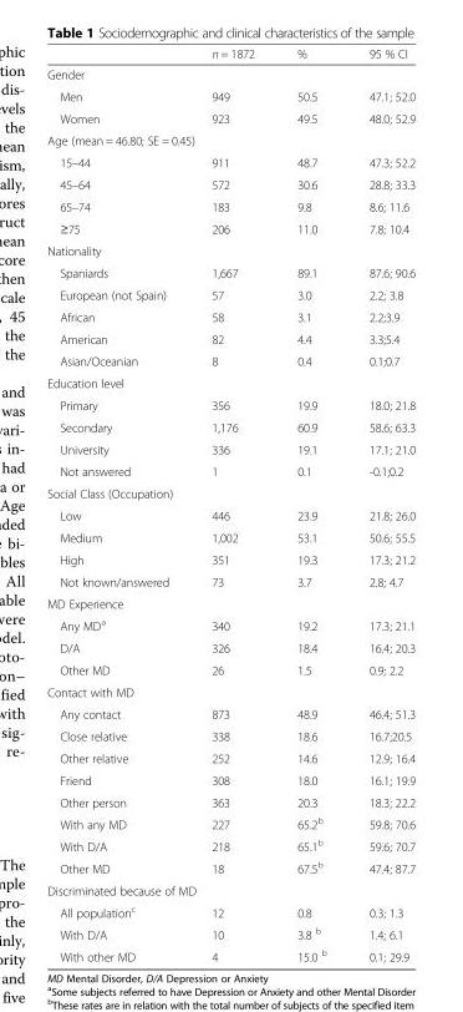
<table><thead><tr><td></td><td>n = 1872</td><td>%</td><td>95 % CI</td></tr></thead><tbody><tr><td colspan="4">Gender</td></tr><tr><td>Men</td><td>949</td><td>50.5</td><td>47.1; 52.0</td></tr><tr><td>Women</td><td>923</td><td>49.5</td><td>48.0; 52.9</td></tr><tr><td colspan="4">Age (mean = 46.80; SE = 0.45)</td></tr><tr><td>15–44</td><td>911</td><td>48.7</td><td>47.3; 52.2</td></tr><tr><td>45–64</td><td>572</td><td>30.6</td><td>28.8; 33.3</td></tr><tr><td>65–74</td><td>183</td><td>9.8</td><td>8.6; 11.6</td></tr><tr><td>≥75</td><td>206</td><td>11.0</td><td>7.8; 10.4</td></tr><tr><td colspan="4">Nationality</td></tr><tr><td>Spaniards</td><td>1,667</td><td>89.1</td><td>87.6; 90.6</td></tr><tr><td>European (not Spain)</td><td>57</td><td>3.0</td><td>2.2; 3.8</td></tr><tr><td>African</td><td>58</td><td>3.1</td><td>2.2;3.9</td></tr><tr><td>American</td><td>82</td><td>4.4</td><td>3.3;5.4</td></tr><tr><td>Asian/Oceanian</td><td>8</td><td>0.4</td><td>0.1;0.7</td></tr><tr><td colspan="4">Education level</td></tr><tr><td>Primary</td><td>356</td><td>19.9</td><td>18.0; 21.8</td></tr><tr><td>Secondary</td><td>1,176</td><td>60.9</td><td>58.6; 63.3</td></tr><tr><td>University</td><td>336</td><td>19.1</td><td>17.1; 21.0</td></tr><tr><td>Not answered</td><td>1</td><td>0.1</td><td>-0.1;0.2</td></tr><tr><td colspan="4">Social Class (Occupation)</td></tr><tr><td>Low</td><td>446</td><td>23.9</td><td>21.8; 26.0</td></tr><tr><td>Medium</td><td>1,002</td><td>53.1</td><td>50.6; 55.5</td></tr><tr><td>High</td><td>351</td><td>19.3</td><td>17.3; 21.2</td></tr><tr><td>Not known/answered</td><td>73</td><td>3.7</td><td>2.8; 4.7</td></tr><tr><td colspan="4">MD Experience</td></tr><tr><td>Any MD<sup>a</sup></td><td>340</td><td>19.2</td><td>17.3; 21.1</td></tr><tr><td>D/A</td><td>326</td><td>18.4</td><td>16.4; 20.3</td></tr><tr><td>Other MD</td><td>26</td><td>1.5</td><td>0.9; 2.2</td></tr><tr><td colspan="4">Contact with MD</td></tr><tr><td>Any contact</td><td>873</td><td>48.9</td><td>46.4; 51.3</td></tr><tr><td>Close relative</td><td>338</td><td>18.6</td><td>16.7;20.5</td></tr><tr><td>Other relative</td><td>252</td><td>14.6</td><td>12.9; 16.4</td></tr><tr><td>Friend</td><td>308</td><td>18.0</td><td>16.1; 19.9</td></tr><tr><td>Other person</td><td>363</td><td>20.3</td><td>18.3; 22.2</td></tr><tr><td>With any MD</td><td>227</td><td>65.2<sup>b</sup></td><td>59.8; 70.6</td></tr><tr><td>With D/A</td><td>218</td><td>65.1<sup>b</sup></td><td>59.6; 70.7</td></tr><tr><td>Other MD</td><td>18</td><td>67.5<sup>b</sup></td><td>47.4; 87.7</td></tr><tr><td colspan="4">Discriminated because of MD</td></tr><tr><td>All population<sup>c</sup></td><td>12</td><td>0.8</td><td>0.3; 1.3</td></tr><tr><td>With D/A</td><td>10</td><td>3.8 <sup>b</sup></td><td>1.4; 6.1</td></tr><tr><td>With other MD</td><td>4</td><td>15.0 <sup>b</sup></td><td>0.1; 29.9</td></tr></tbody></table>